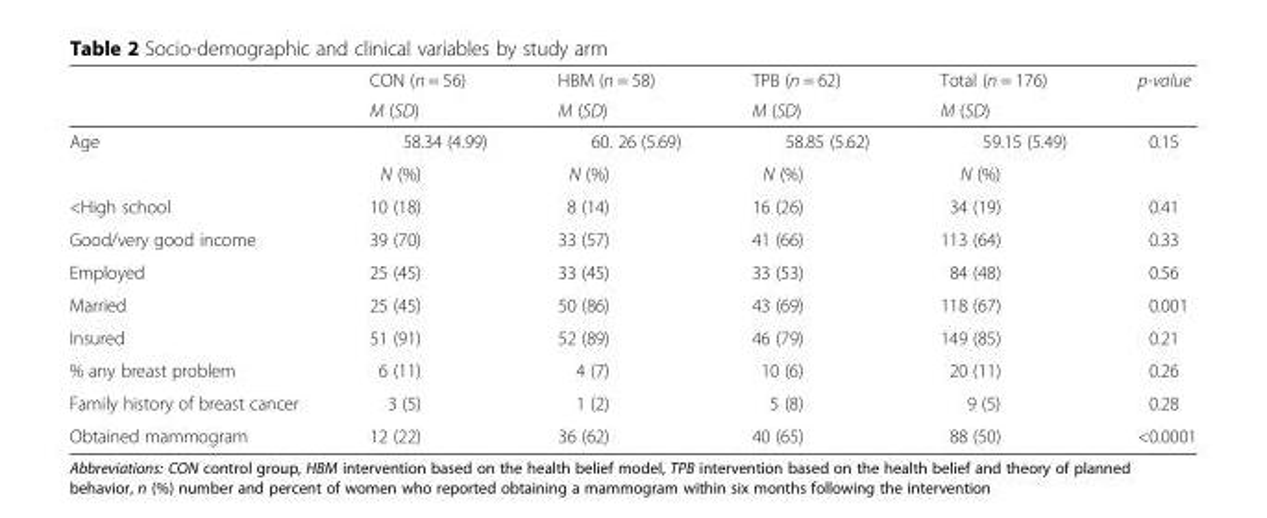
<table><thead><tr><td rowspan="2"></td><td rowspan="2">CON (n = 56) M (SD)</td><td rowspan="2">HBM (n = 58) M (SD)</td><td rowspan="2">TPB (n = 62) M (SD)</td><td rowspan="2">Total (n = 176) M (SD)</td><td rowspan="2">p-value</td></tr><tr></tr></thead><tbody><tr><td rowspan="2">Age</td><td>58.34 (4.99)</td><td>60. 26 (5.69)</td><td>58.85 (5.62)</td><td>59.15 (5.49)</td><td>0.15</td></tr><tr><td>N (%)</td><td>N (%)</td><td>N (%)</td><td>N (%)</td><td></td></tr><tr><td>&lt;High school</td><td>10 (18)</td><td>8 (14)</td><td>16 (26)</td><td>34 (19)</td><td>0.41</td></tr><tr><td>Good/very good income</td><td>39 (70)</td><td>33 (57)</td><td>41 (66)</td><td>113 (64)</td><td>0.33</td></tr><tr><td>Employed</td><td>25 (45)</td><td>33 (45)</td><td>33 (53)</td><td>84 (48)</td><td>0.56</td></tr><tr><td>Married</td><td>25 (45)</td><td>50 (86)</td><td>43 (69)</td><td>118 (67)</td><td>0.001</td></tr><tr><td>Insured</td><td>51 (91)</td><td>52 (89)</td><td>46 (79)</td><td>149 (85)</td><td>0.21</td></tr><tr><td>% any breast problem</td><td>6 (11)</td><td>4 (7)</td><td>10 (6)</td><td>20 (11)</td><td>0.26</td></tr><tr><td>Family history of breast cancer</td><td>3 (5)</td><td>1 (2)</td><td>5 (8)</td><td>9 (5)</td><td>0.28</td></tr><tr><td>Obtained mammogram</td><td>12 (22)</td><td>36 (62)</td><td>40 (65)</td><td>88 (50)</td><td>&lt;0.0001</td></tr></tbody></table>